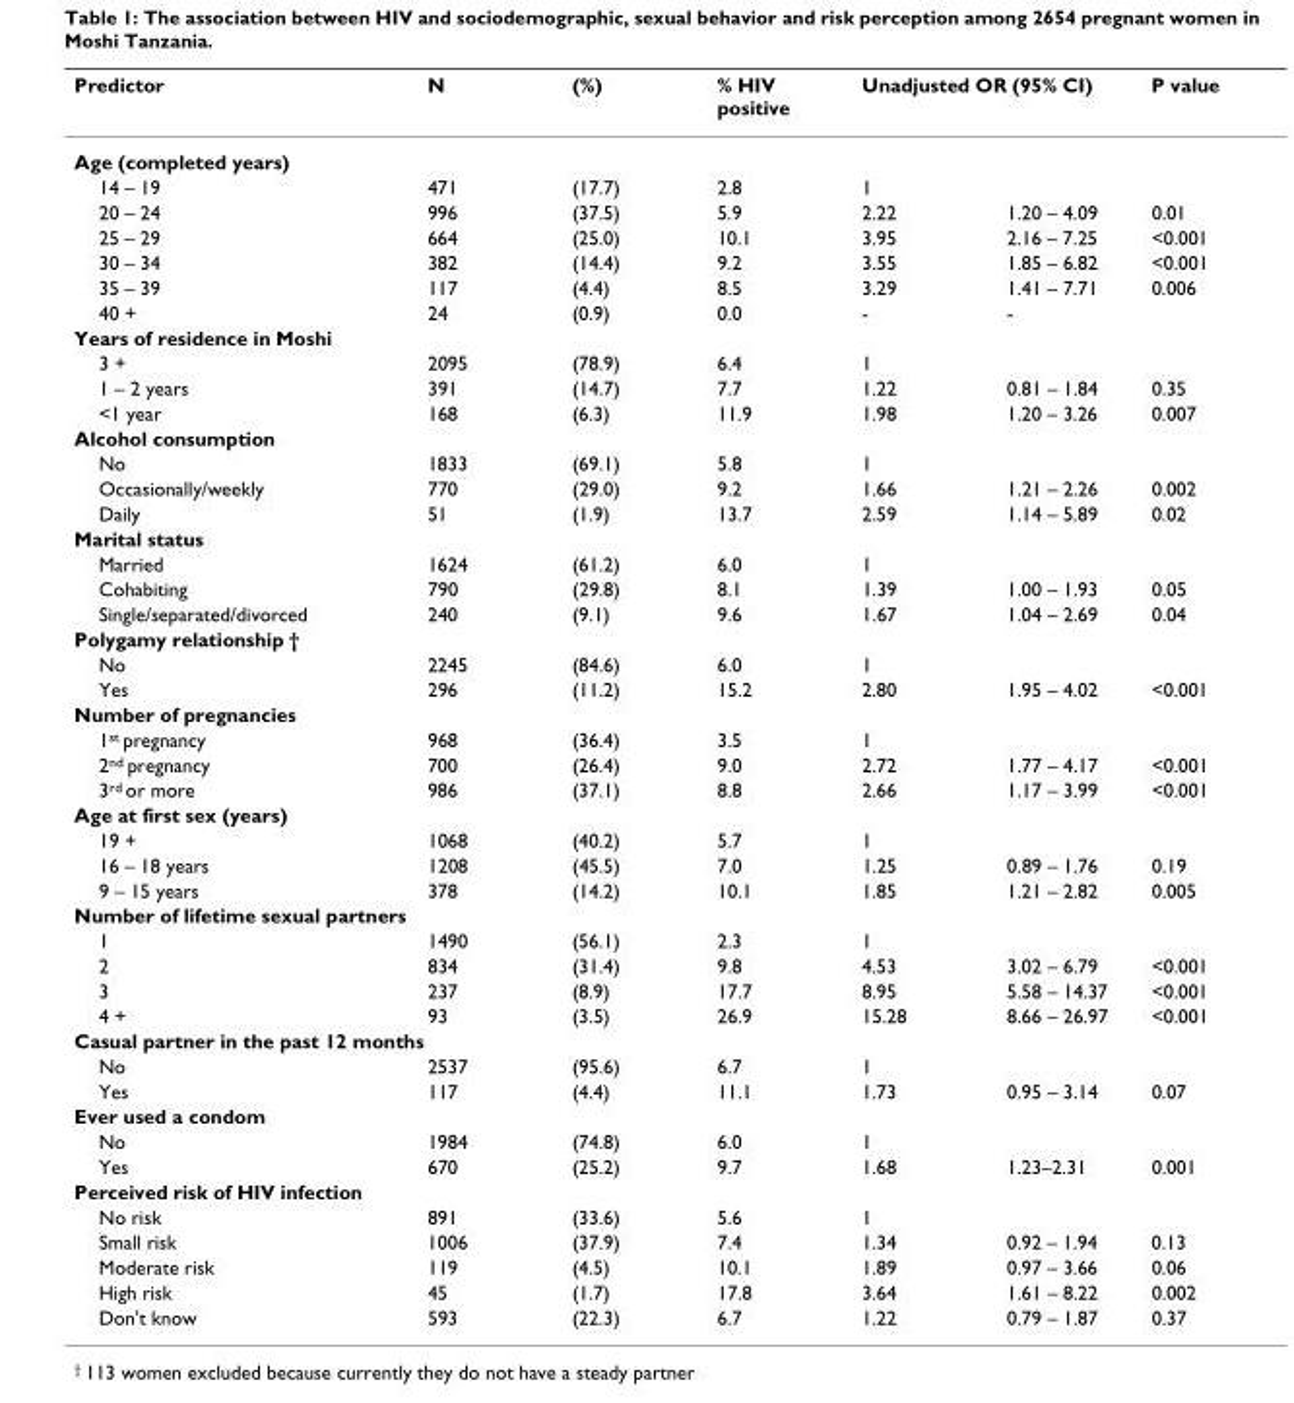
<table><thead><tr><td>Predictor</td><td>N</td><td>(%)</td><td>% HIV positive</td><td colspan="2">Unadjusted OR (95% CI)</td><td>P value</td></tr><tr><td colspan="7">Age (completed years)</td></tr><tr><td>14 – 19</td><td>471</td><td>(17.7)</td><td>2.8</td><td>1</td><td></td><td></td></tr></thead><tbody><tr><td>20 – 24</td><td>996</td><td>(37.5)</td><td>5.9</td><td>2.22</td><td>1.20 – 4.09</td><td>0.01</td></tr><tr><td>25 – 29</td><td>664</td><td>(25.0)</td><td>10.1</td><td>3.95</td><td>2.16 – 7.25</td><td>&lt;0.001</td></tr><tr><td>30 – 34</td><td>382</td><td>(14.4)</td><td>9.2</td><td>3.55</td><td>1.85 – 6.82</td><td>&lt;0.001</td></tr><tr><td>35 – 39</td><td>117</td><td>(4.4)</td><td>8.5</td><td>3.29</td><td>1.41 – 7.71</td><td>0.006</td></tr><tr><td>40 +</td><td>24</td><td>(0.9)</td><td>0.0</td><td>-</td><td>-</td><td></td></tr><tr><td colspan="7">Years of residence in Moshi</td></tr><tr><td>3 +</td><td>2095</td><td>(78.9)</td><td>6.4</td><td>1</td><td></td><td></td></tr><tr><td>1 – 2 years</td><td>391</td><td>(14.7)</td><td>7.7</td><td>1.22</td><td>0.81 – 1.84</td><td>0.35</td></tr><tr><td>&lt;1 year</td><td>168</td><td>(6.3)</td><td>11.9</td><td>1.98</td><td>1.20 – 3.26</td><td>0.007</td></tr><tr><td colspan="7">Alcohol consumption</td></tr><tr><td>No</td><td>1833</td><td>(69.1)</td><td>5.8</td><td>1</td><td></td><td></td></tr><tr><td>Occasionally/weekly</td><td>770</td><td>(29.0)</td><td>9.2</td><td>1.66</td><td>1.21 – 2.26</td><td>0.002</td></tr><tr><td>Daily</td><td>51</td><td>(1.9)</td><td>13.7</td><td>2.59</td><td>1.14 – 5.89</td><td>0.02</td></tr><tr><td colspan="7">Marital status</td></tr><tr><td>Married</td><td>1624</td><td>(61.2)</td><td>6.0</td><td>1</td><td></td><td></td></tr><tr><td>Cohabiting</td><td>790</td><td>(29.8)</td><td>8.1</td><td>1.39</td><td>1.00 – 1.93</td><td>0.05</td></tr><tr><td>Single/separated/divorced</td><td>240</td><td>(9.1)</td><td>9.6</td><td>1.67</td><td>1.04 – 2.69</td><td>0.04</td></tr><tr><td colspan="7">Polygamy relationship †</td></tr><tr><td>No</td><td>2245</td><td>(84.6)</td><td>6.0</td><td>1</td><td></td><td></td></tr><tr><td>Yes</td><td>296</td><td>(11.2)</td><td>15.2</td><td>2.80</td><td>1.95 – 4.02</td><td>&lt;0.001</td></tr><tr><td colspan="7">Number of pregnancies</td></tr><tr><td>1<sup>st</sup> pregnancy</td><td>968</td><td>(36.4)</td><td>3.5</td><td>1</td><td></td><td></td></tr><tr><td>2<sup>nd</sup> pregnancy</td><td>700</td><td>(26.4)</td><td>9.0</td><td>2.72</td><td>1.77 – 4.17</td><td>&lt;0.001</td></tr><tr><td>3<sup>rd</sup> or more</td><td>986</td><td>(37.1)</td><td>8.8</td><td>2.66</td><td>1.17 – 3.99</td><td>&lt;0.001</td></tr><tr><td colspan="7">Age at first sex (years)</td></tr><tr><td>19 +</td><td>1068</td><td>(40.2)</td><td>5.7</td><td>1</td><td></td><td></td></tr><tr><td>16 – 18 years</td><td>1208</td><td>(45.5)</td><td>7.0</td><td>1.25</td><td>0.89 – 1.76</td><td>0.19</td></tr><tr><td>9 – 15 years</td><td>378</td><td>(14.2)</td><td>10.1</td><td>1.85</td><td>1.21 – 2.82</td><td>0.005</td></tr><tr><td colspan="7">Number of lifetime sexual partners</td></tr><tr><td>1</td><td>1490</td><td>(56.1)</td><td>2.3</td><td>1</td><td></td><td></td></tr><tr><td>2</td><td>834</td><td>(31.4)</td><td>9.8</td><td>4.53</td><td>3.02 – 6.79</td><td>&lt;0.001</td></tr><tr><td>3</td><td>237</td><td>(8.9)</td><td>17.7</td><td>8.95</td><td>5.58 – 14.37</td><td>&lt;0.001</td></tr><tr><td>4 +</td><td>93</td><td>(3.5)</td><td>26.9</td><td>15.28</td><td>8.66 – 26.97</td><td>&lt;0.001</td></tr><tr><td colspan="7">Casual partner in the past 12 months</td></tr><tr><td>No</td><td>2537</td><td>(95.6)</td><td>6.7</td><td>1</td><td></td><td></td></tr><tr><td>Yes</td><td>117</td><td>(4.4)</td><td>11.1</td><td>1.73</td><td>0.95 – 3.14</td><td>0.07</td></tr><tr><td colspan="7">Ever used a condom</td></tr><tr><td>No</td><td>1984</td><td>(74.8)</td><td>6.0</td><td>1</td><td></td><td></td></tr><tr><td>Yes</td><td>670</td><td>(25.2)</td><td>9.7</td><td>1.68</td><td>1.23–2.31</td><td>0.001</td></tr><tr><td colspan="7">Perceived risk of HIV infection</td></tr><tr><td>No risk</td><td>891</td><td>(33.6)</td><td>5.6</td><td>1</td><td></td><td></td></tr><tr><td>Small risk</td><td>1006</td><td>(37.9)</td><td>7.4</td><td>1.34</td><td>0.92 – 1.94</td><td>0.13</td></tr><tr><td>Moderate risk</td><td>119</td><td>(4.5)</td><td>10.1</td><td>1.89</td><td>0.97 – 3.66</td><td>0.06</td></tr><tr><td>High risk</td><td>45</td><td>(1.7)</td><td>17.8</td><td>3.64</td><td>1.61 – 8.22</td><td>0.002</td></tr><tr><td>Don&#x27;t know</td><td>593</td><td>(22.3)</td><td>6.7</td><td>1.22</td><td>0.79 – 1.87</td><td>0.37</td></tr></tbody></table>